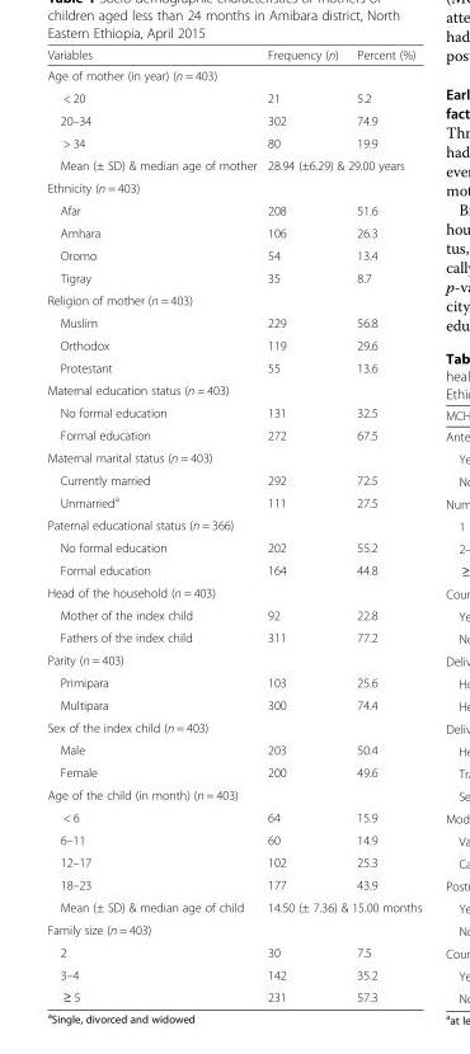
<table><thead><tr><td>Variables</td><td>Frequency (n)</td><td>Percent (%)</td></tr></thead><tbody><tr><td colspan="3">Age of mother (in year) (n = 403)</td></tr><tr><td>&lt; 20</td><td>21</td><td>5.2</td></tr><tr><td>20–34</td><td>302</td><td>74.9</td></tr><tr><td>&gt; 34</td><td>80</td><td>19.9</td></tr><tr><td>Mean (± SD) &amp; median age of mother</td><td colspan="2">28.94 (±6.29) &amp; 29.00 years</td></tr><tr><td colspan="3">Ethnicity (n = 403)</td></tr><tr><td>Afar</td><td>208</td><td>51.6</td></tr><tr><td>Amhara</td><td>106</td><td>26.3</td></tr><tr><td>Oromo</td><td>54</td><td>13.4</td></tr><tr><td>Tigray</td><td>35</td><td>8.7</td></tr><tr><td colspan="3">Religion of mother (n = 403)</td></tr><tr><td>Muslim</td><td>229</td><td>56.8</td></tr><tr><td>Orthodox</td><td>119</td><td>29.6</td></tr><tr><td>Protestant</td><td>55</td><td>13.6</td></tr><tr><td colspan="3">Maternal education status (n = 403)</td></tr><tr><td>No formal education</td><td>131</td><td>32.5</td></tr><tr><td>Formal education</td><td>272</td><td>67.5</td></tr><tr><td colspan="3">Maternal marital status (n = 403)</td></tr><tr><td>Currently married</td><td>292</td><td>72.5</td></tr><tr><td>Unmarried<sup>a</sup></td><td>111</td><td>27.5</td></tr><tr><td colspan="3">Paternal educational status (n = 366)</td></tr><tr><td>No formal education</td><td>202</td><td>55.2</td></tr><tr><td>Formal education</td><td>164</td><td>44.8</td></tr><tr><td colspan="3">Head of the household (n = 403)</td></tr><tr><td>Mother of the index child</td><td>92</td><td>22.8</td></tr><tr><td>Fathers of the index child</td><td>311</td><td>77.2</td></tr><tr><td colspan="3">Parity (n = 403)</td></tr><tr><td>Primipara</td><td>103</td><td>25.6</td></tr><tr><td>Multipara</td><td>300</td><td>74.4</td></tr><tr><td colspan="3">Sex of the index child (n = 403)</td></tr><tr><td>Male</td><td>203</td><td>50.4</td></tr><tr><td>Female</td><td>200</td><td>49.6</td></tr><tr><td colspan="3">Age of the child (in month) (n = 403)</td></tr><tr><td>&lt; 6</td><td>64</td><td>15.9</td></tr><tr><td>6–11</td><td>60</td><td>14.9</td></tr><tr><td>12–17</td><td>102</td><td>25.3</td></tr><tr><td>18–23</td><td>177</td><td>43.9</td></tr><tr><td>Mean (± SD) &amp; median age of child</td><td colspan="2">14.50 (± 7.36) &amp; 15.00 months</td></tr><tr><td colspan="3">Family size (n = 403)</td></tr><tr><td>2</td><td>30</td><td>7.5</td></tr><tr><td>3–4</td><td>142</td><td>35.2</td></tr><tr><td>≥ 5</td><td>231</td><td>57.3</td></tr></tbody></table>